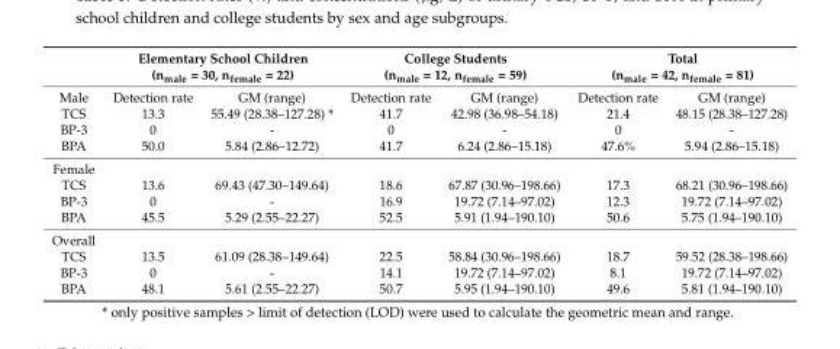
<table><thead><tr><td rowspan="2">Male</td><td colspan="2">Elementary School Children (n<sub>male</sub> = 30, n<sub>female</sub> = 22)</td><td colspan="2">College Students (n<sub>male</sub> = 12, n<sub>female</sub> = 59)</td><td colspan="2">Total (n<sub>male</sub> = 42, n<sub>female</sub> = 81)</td></tr><tr><td>Detection rate</td><td>GM (range)</td><td>Detection rate</td><td>GM (range)</td><td>Detection rate</td><td>GM (range)</td></tr></thead><tbody><tr><td>TCS</td><td>13.3</td><td>55.49 (28.38–127.28) *</td><td>41.7</td><td>42.98 (36.98–54.18)</td><td>21.4</td><td>48.15 (28.38–127.28)</td></tr><tr><td>BP-3</td><td>0</td><td>-</td><td>0</td><td>-</td><td>0</td><td>-</td></tr><tr><td>BPA</td><td>50.0</td><td>5.84 (2.86–12.72)</td><td>41.7</td><td>6.24 (2.86–15.18)</td><td>47.6%</td><td>5.94 (2.86–15.18)</td></tr><tr><td colspan="7">Female</td></tr><tr><td>TCS</td><td>13.6</td><td>69.43 (47.30–149.64)</td><td>18.6</td><td>67.87 (30.96–198.66)</td><td>17.3</td><td>68.21 (30.96–198.66)</td></tr><tr><td>BP-3</td><td>0</td><td>-</td><td>16.9</td><td>19.72 (7.14–97.02)</td><td>12.3</td><td>19.72 (7.14–97.02)</td></tr><tr><td>BPA</td><td>45.5</td><td>5.29 (2.55–22.27)</td><td>52.5</td><td>5.91 (1.94–190.10)</td><td>50.6</td><td>5.75 (1.94–190.10)</td></tr><tr><td colspan="7">Overall</td></tr><tr><td>TCS</td><td>13.5</td><td>61.09 (28.38–149.64)</td><td>22.5</td><td>58.84 (30.96–198.66)</td><td>18.7</td><td>59.52 (28.38–198.66)</td></tr><tr><td>BP-3</td><td>0</td><td>-</td><td>14.1</td><td>19.72 (7.14–97.02)</td><td>8.1</td><td>19.72 (7.14–97.02)</td></tr><tr><td>BPA</td><td>48.1</td><td>5.61 (2.55–22.27)</td><td>50.7</td><td>5.95 (1.94–190.10)</td><td>49.6</td><td>5.81 (1.94–190.10)</td></tr></tbody></table>